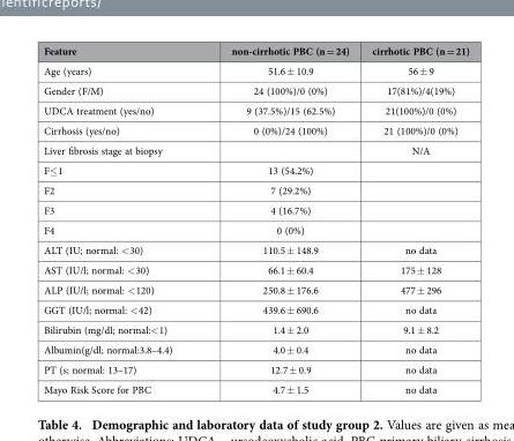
<table><thead><tr><td>Feature</td><td>non-cirrhotic PBC (n = 24)</td><td>cirrhotic PBC (n = 21)</td></tr></thead><tbody><tr><td>Age (years)</td><td>51.6 ± 10.9</td><td>56 ± 9</td></tr><tr><td>Gender (F/M)</td><td>24 (100%)/0 (0%)</td><td>17(81%)/4(19%)</td></tr><tr><td>UDCA treatment (yes/no)</td><td>9 (37.5%)/15 (62.5%)</td><td>21(100%)/0 (0%)</td></tr><tr><td>Cirrhosis (yes/no)</td><td>0 (0%)/24 (100%)</td><td>21 (100%)/0 (0%)</td></tr><tr><td>Liver fibrosis stage at biopsy</td><td></td><td>N/A</td></tr><tr><td>F≤ 1</td><td>13 (54.2%)</td><td></td></tr><tr><td>F2</td><td>7 (29.2%)</td><td></td></tr><tr><td>F3</td><td>4 (16.7%)</td><td></td></tr><tr><td>F4</td><td>0 (0%)</td><td></td></tr><tr><td>ALT (IU; normal: &lt; 30)</td><td>110.5 ± 148.9</td><td>no data</td></tr><tr><td>AST (IU/l; normal: &lt; 30)</td><td>66.1 ± 60.4</td><td>175 ± 128</td></tr><tr><td>ALP (IU/l; normal: &lt; 120)</td><td>250.8 ± 176.6</td><td>477 ± 296</td></tr><tr><td>GGT (IU/l; normal: &lt; 42)</td><td>439.6 ± 690.6</td><td>no data</td></tr><tr><td>Bilirubin (mg/dl; normal:&lt; 1)</td><td>1.4 ± 2.0</td><td>9.1 ± 8.2</td></tr><tr><td>Albumin(g/dl; normal:3.8–4.4)</td><td>4.0 ± 0.4</td><td>no data</td></tr><tr><td>PT (s; normal: 13–17)</td><td>12.7 ± 0.9</td><td>no data</td></tr><tr><td>Mayo Risk Score for PBC</td><td>4.7 ± 1.5</td><td>no data</td></tr></tbody></table>